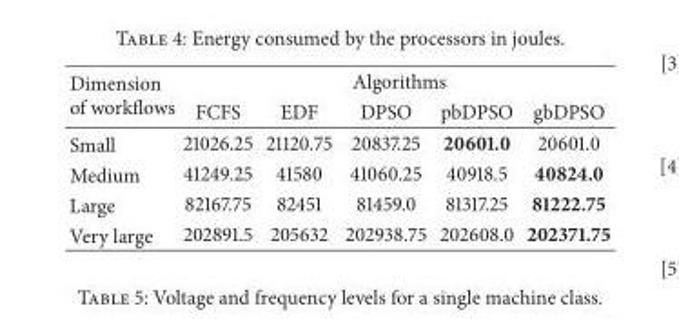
<table><thead><tr><td rowspan="2">Dimension of workflows</td><td colspan="5">Algorithms</td></tr><tr><td>FCFS</td><td>EDF</td><td>DPSO</td><td>pbDPSO</td><td>gbDPSO</td></tr></thead><tbody><tr><td>Small</td><td>21026.25</td><td>21120.75</td><td>20837.25</td><td>20601.0</td><td>20601.0</td></tr><tr><td>Medium</td><td>41249.25</td><td>41580</td><td>41060.25</td><td>40918.5</td><td>40824.0</td></tr><tr><td>Large</td><td>82167.75</td><td>82451</td><td>81459.0</td><td>81317.25</td><td>81222.75</td></tr><tr><td>Very large</td><td>202891.5</td><td>205632</td><td>202938.75</td><td>202608.0</td><td>202371.75</td></tr></tbody></table>